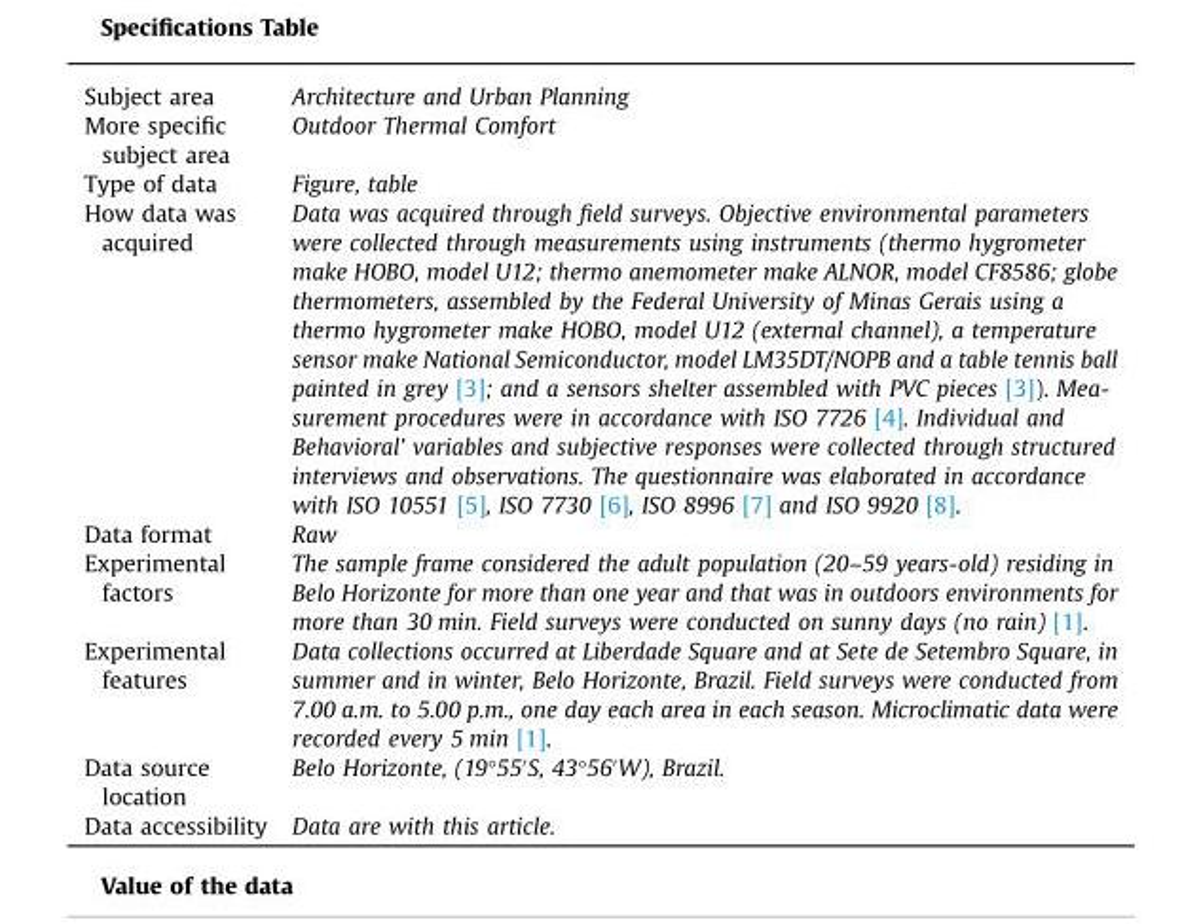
<table><tbody><tr><td>Subject area</td><td>Architecture and Urban Planning</td></tr><tr><td>More specific subject area</td><td>Outdoor Thermal Comfort</td></tr><tr><td>Type of data</td><td>Figure, table</td></tr><tr><td>How data was acquired</td><td>Data was acquired through field surveys. Objective environmental parameters were collected through measurements using instruments (thermo hygrometer make HOBO, model U12; thermo anemometer make ALNOR, model CF8586; globe thermometers, assembled by the Federal University of Minas Gerais using a thermo hygrometer make HOBO, model U12 (external channel), a temperature sensor make National Semiconductor, model LM35DT/NOPB and a table tennis ball painted in grey [3]; and a sensors shelter assembled with PVC pieces [3]). Mea- surement procedures were in accordance with ISO 7726 [4]. Individual and Behavioral’ variables and subjective responses were collected through structured interviews and observations. The questionnaire was elaborated in accordance with ISO 10551 [5], ISO 7730 [6], ISO 8996 [7] and ISO 9920 [8].</td></tr><tr><td>Data format</td><td>Raw</td></tr><tr><td>Experimental factors</td><td>The sample frame considered the adult population (20–59 years-old) residing in Belo Horizonte for more than one year and that was in outdoors environments for more than 30 min. Field surveys were conducted on sunny days (no rain) [1].</td></tr><tr><td>Experimental features</td><td>Data collections occurred at Liberdade Square and at Sete de Setembro Square, in summer and in winter, Belo Horizonte, Brazil. Field surveys were conducted from 7.00 a.m. to 5.00 p.m., one day each area in each season. Microclimatic data were recorded every 5 min [1].</td></tr><tr><td>Data source location</td><td>Belo Horizonte, (19°55′S, 43°56′W), Brazil.</td></tr><tr><td>Data accessibility</td><td>Data are with this article.</td></tr></tbody></table>